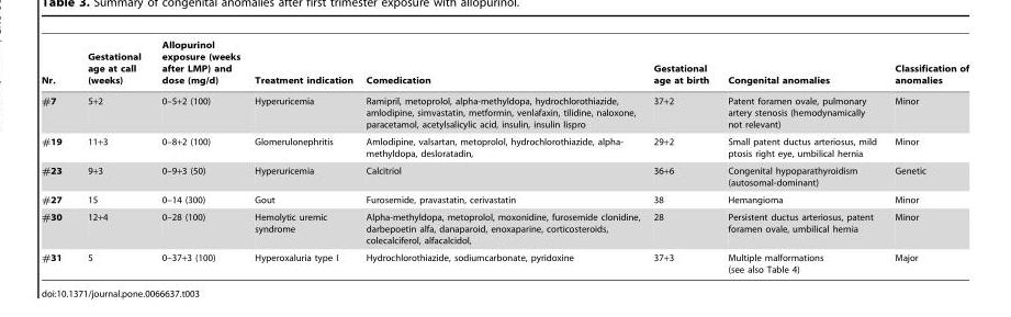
<table><thead><tr><td>Nr.</td><td>Gestational age at call (weeks)</td><td>Allopurinol exposure (weeks after LMP) and dose (mg/d)</td><td>Treatment indication</td><td>Comedication</td><td>Gestational age at birth</td><td>Congenital anomalies</td><td>Classification of anomalies</td></tr></thead><tbody><tr><td>#7</td><td>5+2</td><td>0–5+2 (100)</td><td>Hyperuricemia</td><td>Ramipril, metoprolol, alpha-methyldopa, hydrochlorothiazide, amlodipine, simvastatin, metformin, venlafaxin, tilidine, naloxone, paracetamol, acetylsalicylic acid, insulin, insulin lispro</td><td>37+2</td><td>Patent foramen ovale, pulmonary artery stenosis (hemodynamically not relevant)</td><td>Minor</td></tr><tr><td>#19</td><td>11+3</td><td>0–8+2 (100)</td><td>Glomerulonephritis</td><td>Amlodipine, valsartan, metoprolol, hydrochlorothiazide, alpha- methyldopa, desloratadin,</td><td>29+2</td><td>Small patent ductus arteriosus, mild ptosis right eye, umbilical hernia</td><td>Minor</td></tr><tr><td>#23</td><td>9+3</td><td>0–9+3 (50)</td><td>Hyperuricemia</td><td>Calcitriol</td><td>36+6</td><td>Congenital hypoparathyroidism (autosomal-dominant)</td><td>Genetic</td></tr><tr><td>#27</td><td>15</td><td>0–14 (300)</td><td>Gout</td><td>Furosemide, pravastatin, cerivastatin</td><td>38</td><td>Hemangioma</td><td>Minor</td></tr><tr><td>#30</td><td>12+4</td><td>0–28 (100)</td><td>Hemolytic uremic syndrome</td><td>Alpha-methyldopa, metoprolol, moxonidine, furosemide clonidine, darbepoetin alfa, danaparoid, enoxaparine, corticosteroids, colecalciferol, alfacalcidol,</td><td>28</td><td>Persistent ductus arteriosus, patent foramen ovale, umbilical hernia</td><td>Minor</td></tr><tr><td>#31</td><td>5</td><td>0–37+3 (100)</td><td>Hyperoxaluria type I</td><td>Hydrochlorothiazide, sodiumcarbonate, pyridoxine</td><td>37+3</td><td>Multiple malformations (see also Table 4)</td><td>Major</td></tr></tbody></table>